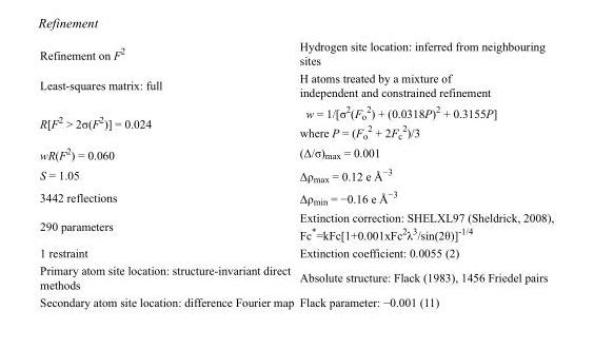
<table><tbody><tr><td>Refinement on F<sup>2</sup></td><td>Hydrogen site location: inferred from neighbouring sites</td></tr><tr><td>Least-squares matrix: full</td><td>H atoms treated by a mixture of independent and constrained refinement</td></tr><tr><td>R[F<sup>2</sup> &gt; 2σ(F<sup>2</sup>)] = 0.024</td><td>w = 1/[σ<sup>2</sup>(F<sub>o</sub> <sup>2</sup>) + (0.0318P)<sup>2</sup> + 0.3155P] where P = (F<sub>o</sub> <sup>2</sup> + 2F<sub>c</sub> <sup>2</sup>)/3</td></tr><tr><td>wR(F<sup>2</sup>) = 0.060</td><td>(Δ/σ)<sub>max</sub> = 0.001</td></tr><tr><td>S = 1.05</td><td>Δρ<sub>max</sub> = 0.12 e Å<sup>−3</sup></td></tr><tr><td>3442 reflections</td><td>Δρ<sub>min</sub> = −0.16 e Å<sup>−3</sup></td></tr><tr><td>290 parameters</td><td>Extinction correction: SHELXL97 (Sheldrick, 2008), Fc*=kFc[1+0.001xFc<sup>2</sup>λ<sup>3</sup>/sin(2θ)]<sup>-1/4</sup></td></tr><tr><td>1 restraint</td><td>Extinction coefficient: 0.0055 (2)</td></tr><tr><td>Primary atom site location: structure-invariant direct methods</td><td>Absolute structure: Flack (1983), 1456 Friedel pairs</td></tr><tr><td>Secondary atom site location: difference Fourier map</td><td>Flack parameter: −0.001 (11)</td></tr></tbody></table>